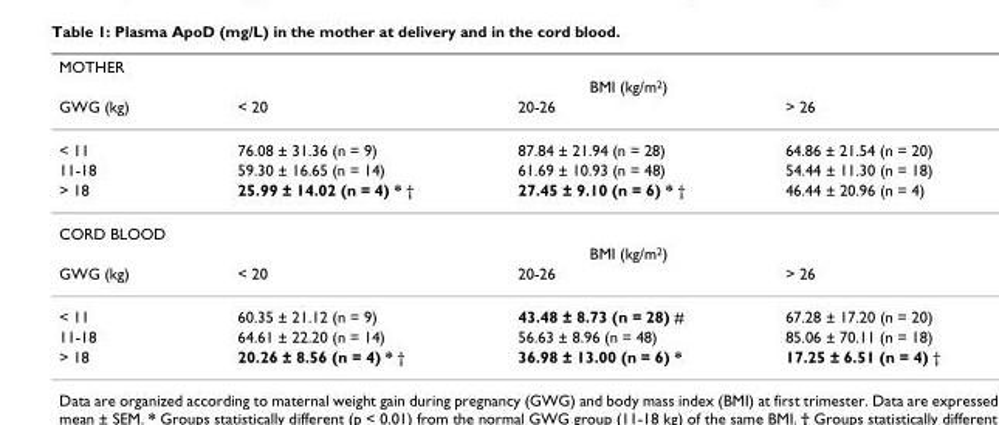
<table><thead><tr><td rowspan="3">MOTHER GWG (kg)</td><td></td><td></td><td></td></tr><tr><td colspan="3">BMI (kg/m<sup>2</sup>)</td></tr><tr><td>&lt; 20</td><td>20-26</td><td>&gt; 26</td></tr></thead><tbody><tr><td>&lt; 11</td><td>76.08 ± 31.36 (n = 9)</td><td>87.84 ± 21.94 (n = 28)</td><td>64.86 ± 21.54 (n = 20)</td></tr><tr><td>11-18</td><td>59.30 ± 16.65 (n = 14)</td><td>61.69 ± 10.93 (n = 48)</td><td>54.44 ± 11.30 (n = 18)</td></tr><tr><td>&gt; 18</td><td>25.99 ± 14.02 (n = 4) * †</td><td>27.45 ± 9.10 (n = 6) * †</td><td>46.44 ± 20.96 (n = 4)</td></tr><tr><td colspan="4">CORD BLOOD</td></tr><tr><td></td><td colspan="3">BMI (kg/m<sup>2</sup>)</td></tr><tr><td>GWG (kg)</td><td>&lt; 20</td><td>20-26</td><td>&gt; 26</td></tr><tr><td>&lt; 11</td><td>60.35 ± 21.12 (n = 9)</td><td>43.48 ± 8.73 (n = 28) #</td><td>67.28 ± 17.20 (n = 20)</td></tr><tr><td>11-18</td><td>64.61 ± 22.20 (n = 14)</td><td>56.63 ± 8.96 (n = 48)</td><td>85.06 ± 70.11 (n = 18)</td></tr><tr><td>&gt; 18</td><td>20.26 ± 8.56 (n = 4) * †</td><td>36.98 ± 13.00 (n = 6) *</td><td>17.25 ± 6.51 (n = 4) †</td></tr></tbody></table>